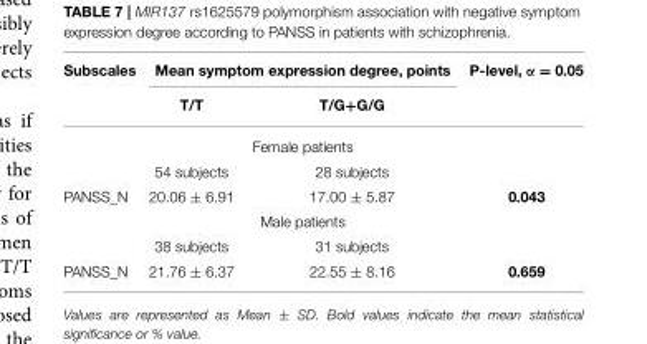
<table><thead><tr><td rowspan="2">Subscales</td><td colspan="2">Mean symptom expression degree, points</td><td rowspan="2">P-level, α = 0.05</td></tr><tr><td>T/T</td><td>T/G+G/G</td></tr></thead><tbody><tr><td></td><td colspan="2">Female patients</td><td></td></tr><tr><td></td><td>54 subjects</td><td>28 subjects</td><td></td></tr><tr><td rowspan="3">PANSS_N</td><td>20.06 ± 6.91</td><td>17.00 ± 5.87</td><td>0.043</td></tr><tr><td colspan="2">Male patients</td><td></td></tr><tr><td>38 subjects</td><td>31 subjects</td><td></td></tr><tr><td>PANSS_N</td><td>21.76 ± 6.37</td><td>22.55 ± 8.16</td><td>0.659</td></tr></tbody></table>